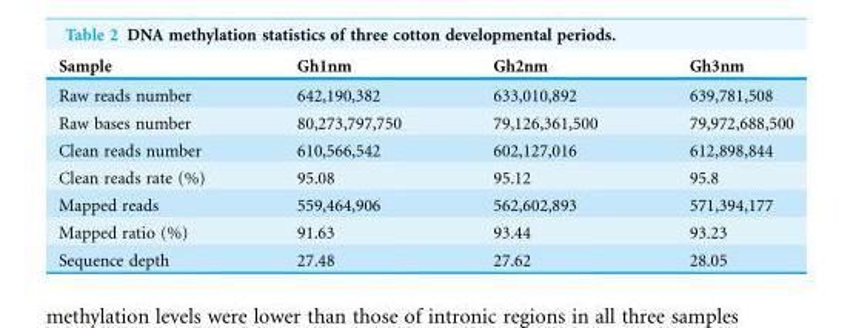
<table><thead><tr><td>Sample</td><td>Gh1nm</td><td>Gh2nm</td><td>Gh3nm</td></tr></thead><tbody><tr><td>Raw reads number</td><td>642,190,382</td><td>633,010,892</td><td>639,781,508</td></tr><tr><td>Raw bases number</td><td>80,273,797,750</td><td>79,126,361,500</td><td>79,972,688,500</td></tr><tr><td>Clean reads number</td><td>610,566,542</td><td>602,127,016</td><td>612,898,844</td></tr><tr><td>Clean reads rate (%)</td><td>95.08</td><td>95.12</td><td>95.8</td></tr><tr><td>Mapped reads</td><td>559,464,906</td><td>562,602,893</td><td>571,394,177</td></tr><tr><td>Mapped ratio (%)</td><td>91.63</td><td>93.44</td><td>93.23</td></tr><tr><td>Sequence depth</td><td>27.48</td><td>27.62</td><td>28.05</td></tr></tbody></table>